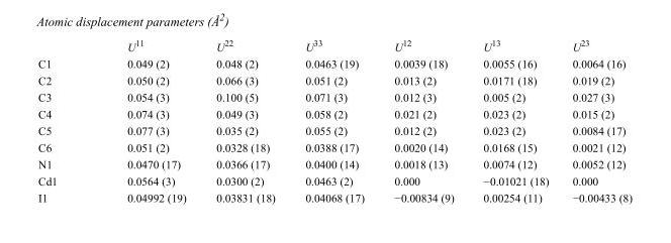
<table><thead><tr><td></td><td>U<sup>11</sup></td><td>U<sup>22</sup></td><td>U<sup>33</sup></td><td>U<sup>12</sup></td><td>U<sup>13</sup></td><td>U<sup>23</sup></td></tr></thead><tbody><tr><td>C1</td><td>0.049 (2)</td><td>0.048 (2)</td><td>0.0463 (19)</td><td>0.0039 (18)</td><td>0.0055 (16)</td><td>0.0064 (16)</td></tr><tr><td>C2</td><td>0.050 (2)</td><td>0.066 (3)</td><td>0.051 (2)</td><td>0.013 (2)</td><td>0.0171 (18)</td><td>0.019 (2)</td></tr><tr><td>C3</td><td>0.054 (3)</td><td>0.100 (5)</td><td>0.071 (3)</td><td>0.012 (3)</td><td>0.005 (2)</td><td>0.027 (3)</td></tr><tr><td>C4</td><td>0.074 (3)</td><td>0.049 (3)</td><td>0.058 (2)</td><td>0.021 (2)</td><td>0.023 (2)</td><td>0.015 (2)</td></tr><tr><td>C5</td><td>0.077 (3)</td><td>0.035 (2)</td><td>0.055 (2)</td><td>0.012 (2)</td><td>0.023 (2)</td><td>0.0084 (17)</td></tr><tr><td>C6</td><td>0.051 (2)</td><td>0.0328 (18)</td><td>0.0388 (17)</td><td>0.0020 (14)</td><td>0.0168 (15)</td><td>0.0021 (12)</td></tr><tr><td>N1</td><td>0.0470 (17)</td><td>0.0366 (17)</td><td>0.0400 (14)</td><td>0.0018 (13)</td><td>0.0074 (12)</td><td>0.0052 (12)</td></tr><tr><td>Cd1</td><td>0.0564 (3)</td><td>0.0300 (2)</td><td>0.0463 (2)</td><td>0.000</td><td>−0.01021 (18)</td><td>0.000</td></tr><tr><td>I1</td><td>0.04992 (19)</td><td>0.03831 (18)</td><td>0.04068 (17)</td><td>−0.00834 (9)</td><td>0.00254 (11)</td><td>−0.00433 (8)</td></tr></tbody></table>